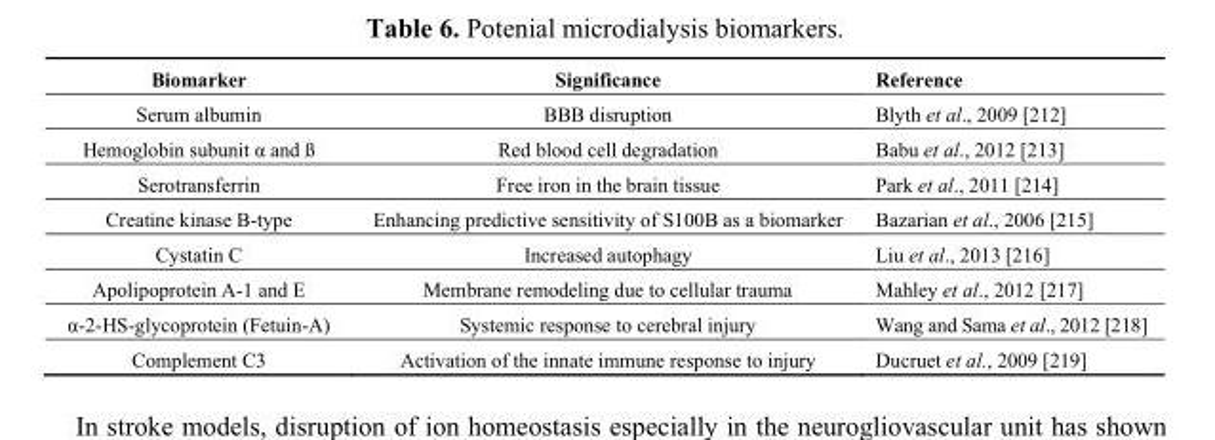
<table><thead><tr><td>Biomarker</td><td>Significance</td><td>Reference</td></tr></thead><tbody><tr><td>Serum albumin</td><td>BBB disruption</td><td>Blyth et al., 2009 [212]</td></tr><tr><td>Hemoglobin subunit α and ß</td><td>Red blood cell degradation</td><td>Babu et al., 2012 [213]</td></tr><tr><td>Serotransferrin</td><td>Free iron in the brain tissue</td><td>Park et al., 2011 [214]</td></tr><tr><td>Creatine kinase B-type</td><td>Enhancing predictive sensitivity of S100B as a biomarker</td><td>Bazarian et al., 2006 [215]</td></tr><tr><td>Cystatin C</td><td>Increased autophagy</td><td>Liu et al., 2013 [216]</td></tr><tr><td>Apolipoprotein A-1 and E</td><td>Membrane remodeling due to cellular trauma</td><td>Mahley et al., 2012 [217]</td></tr><tr><td>α-2-HS-glycoprotein (Fetuin-A)</td><td>Systemic response to cerebral injury</td><td>Wang and Sama et al., 2012 [218]</td></tr><tr><td>Complement C3</td><td>Activation of the innate immune response to injury</td><td>Ducruet et al., 2009 [219]</td></tr></tbody></table>